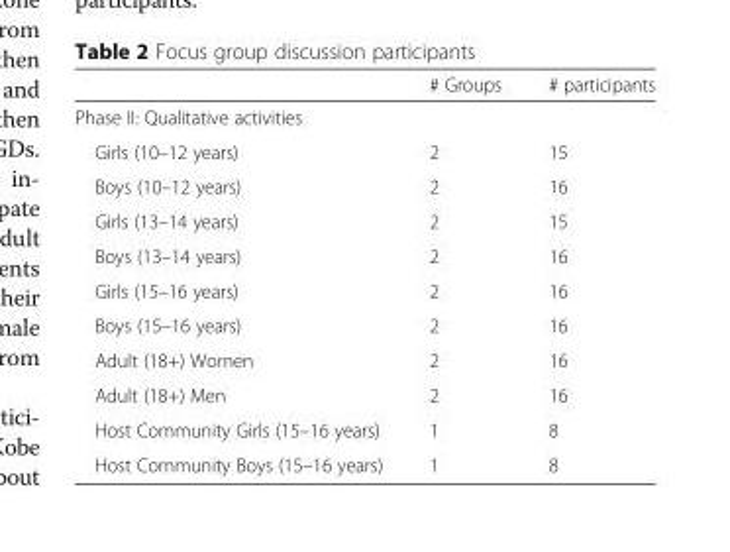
<table><thead><tr><td></td><td># Groups</td><td># participants</td></tr></thead><tbody><tr><td colspan="3">Phase II: Qualitative activities</td></tr><tr><td>Girls (10–12 years)</td><td>2</td><td>15</td></tr><tr><td>Boys (10–12 years)</td><td>2</td><td>16</td></tr><tr><td>Girls (13–14 years)</td><td>2</td><td>15</td></tr><tr><td>Boys (13–14 years)</td><td>2</td><td>16</td></tr><tr><td>Girls (15–16 years)</td><td>2</td><td>16</td></tr><tr><td>Boys (15–16 years)</td><td>2</td><td>16</td></tr><tr><td>Adult (18+) Women</td><td>2</td><td>16</td></tr><tr><td>Adult (18+) Men</td><td>2</td><td>16</td></tr><tr><td>Host Community Girls (15–16 years)</td><td>1</td><td>8</td></tr><tr><td>Host Community Boys (15–16 years)</td><td>1</td><td>8</td></tr></tbody></table>